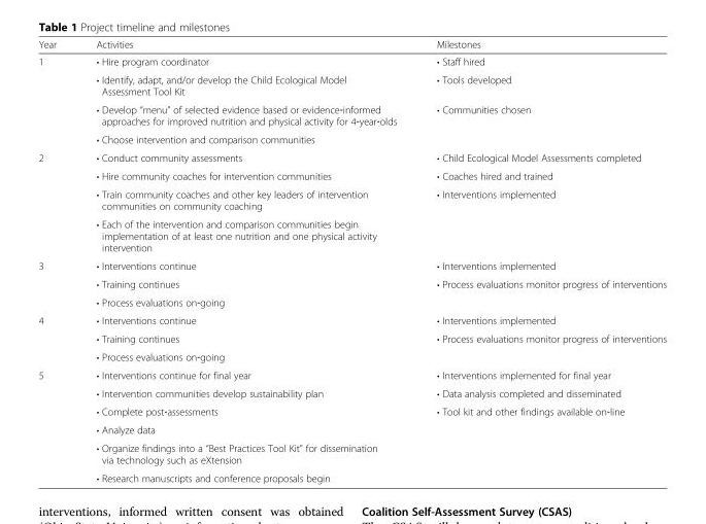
<table><thead><tr><td>Year</td><td>Activities</td><td>Milestones</td></tr></thead><tbody><tr><td rowspan="4">1</td><td>• Hire program coordinator</td><td>• Staff hired</td></tr><tr><td>• Identify, adapt, and/or develop the Child Ecological Model Assessment Tool Kit</td><td>• Tools developed</td></tr><tr><td>• Develop “menu” of selected evidence based or evidence‐informed approaches for improved nutrition and physical activity for 4‐year‐olds</td><td rowspan="2">• Communities chosen</td></tr><tr><td>• Choose intervention and comparison communities</td></tr><tr><td rowspan="4">2</td><td>• Conduct community assessments</td><td>• Child Ecological Model Assessments completed</td></tr><tr><td>• Hire community coaches for intervention communities</td><td>• Coaches hired and trained</td></tr><tr><td>• Train community coaches and other key leaders of intervention communities on community coaching</td><td rowspan="2">• Interventions implemented</td></tr><tr><td>• Each of the intervention and comparison communities begin implementation of at least one nutrition and one physical activity intervention</td></tr><tr><td rowspan="3">3</td><td>• Interventions continue</td><td>• Interventions implemented</td></tr><tr><td>• Training continues</td><td rowspan="2">• Process evaluations monitor progress of interventions</td></tr><tr><td>• Process evaluations on‐going</td></tr><tr><td rowspan="3">4</td><td>• Interventions continue</td><td>• Interventions implemented</td></tr><tr><td>• Training continues</td><td rowspan="2">• Process evaluations monitor progress of interventions</td></tr><tr><td>• Process evaluations on‐going</td></tr><tr><td rowspan="6">5</td><td>• Interventions continue for final year</td><td>• Interventions implemented for final year</td></tr><tr><td>• Intervention communities develop sustainability plan</td><td>• Data analysis completed and disseminated</td></tr><tr><td>• Complete post‐assessments</td><td rowspan="4">• Tool kit and other findings available on‐line</td></tr><tr><td>• Analyze data</td></tr><tr><td>• Organize findings into a “Best Practices Tool Kit” for dissemination via technology such as eXtension</td></tr><tr><td>• Research manuscripts and conference proposals begin</td></tr></tbody></table>